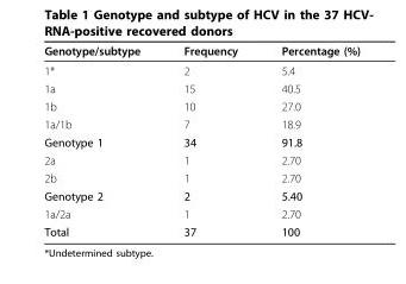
<table><thead><tr><td>Genotype/subtype</td><td>Frequency</td><td>Percentage (%)</td></tr></thead><tbody><tr><td>1*</td><td>2</td><td>5.4</td></tr><tr><td>1a</td><td>15</td><td>40.5</td></tr><tr><td>1b</td><td>10</td><td>27.0</td></tr><tr><td>1a/1b</td><td>7</td><td>18.9</td></tr><tr><td>Genotype 1</td><td>34</td><td>91.8</td></tr><tr><td>2a</td><td>1</td><td>2.70</td></tr><tr><td>2b</td><td>1</td><td>2.70</td></tr><tr><td>Genotype 2</td><td>2</td><td>5.40</td></tr><tr><td>1a/2a</td><td>1</td><td>2.70</td></tr><tr><td>Total</td><td>37</td><td>100</td></tr></tbody></table>